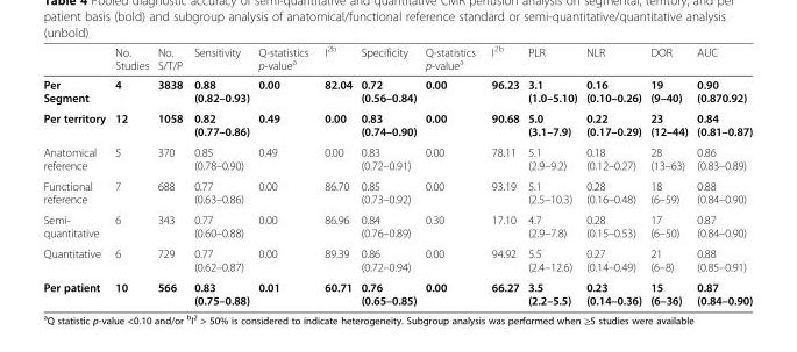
<table><thead><tr><td></td><td>No. Studies</td><td>No. S/T/P</td><td>Sensitivity</td><td>Q-statistics p-value<sup>a</sup></td><td>I<sup>2b</sup></td><td>Specificity</td><td>Q-statistics p-value<sup>a</sup></td><td>I<sup>2b</sup></td><td>PLR</td><td>NLR</td><td>DOR</td><td>AUC</td></tr></thead><tbody><tr><td>Per Segment</td><td>4</td><td>3838</td><td>0.88 (0.82–0.93)</td><td>0.00</td><td>82.04</td><td>0.72 (0.56–0.84)</td><td>0.00</td><td>96.23</td><td>3.1 (1.0–5.10)</td><td>0.16 (0.10–0.26)</td><td>19 (9–40)</td><td>0.90 (0.870.92)</td></tr><tr><td>Per territory</td><td>12</td><td>1058</td><td>0.82 (0.77–0.86)</td><td>0.49</td><td>0.00</td><td>0.83 (0.74–0.90)</td><td>0.00</td><td>90.68</td><td>5.0 (3.1–7.9)</td><td>0.22 (0.17–0.29)</td><td>23 (12–44)</td><td>0.84 (0.81–0.87)</td></tr><tr><td>Anatomical reference</td><td>5</td><td>370</td><td>0.85 (0.78–0.90)</td><td>0.49</td><td>0.00</td><td>0.83 (0.72–0.91)</td><td>0.00</td><td>78.11</td><td>5.1 (2.9–9.2)</td><td>0.18 (0.12–0.27)</td><td>28 (13–63)</td><td>0.86 (0.83–0.89)</td></tr><tr><td>Functional reference</td><td>7</td><td>688</td><td>0.77 (0.63–0.86)</td><td>0.00</td><td>86.70</td><td>0.85 (0.73–0.92)</td><td>0.00</td><td>93.19</td><td>5.1 (2.5–10.3)</td><td>0.28 (0.16–0.48)</td><td>18 (6–59)</td><td>0.88 (0.84–0.90)</td></tr><tr><td>Semi- quantitative</td><td>6</td><td>343</td><td>0.77 (0.60–0.88)</td><td>0.00</td><td>86.96</td><td>0.84 (0.76–0.89)</td><td>0.30</td><td>17.10</td><td>4.7 (2.9–7.8)</td><td>0.28 (0.15–0.53)</td><td>17 (6–50)</td><td>0.87 (0.84–0.90)</td></tr><tr><td>Quantitative</td><td>6</td><td>729</td><td>0.77 (0.62–0.87)</td><td>0.00</td><td>89.39</td><td>0.86 (0.72–0.94)</td><td>0.00</td><td>94.92</td><td>5.5 (2.4–12.6)</td><td>0.27 (0.14–0.49)</td><td>21 (6–8)</td><td>0.88 (0.85–0.91)</td></tr><tr><td>Per patient</td><td>10</td><td>566</td><td>0.83 (0.75–0.88)</td><td>0.01</td><td>60.71</td><td>0.76 (0.65–0.85)</td><td>0.00</td><td>66.27</td><td>3.5 (2.2–5.5)</td><td>0.23 (0.14–0.36)</td><td>15 (6–36)</td><td>0.87 (0.84–0.90)</td></tr></tbody></table>